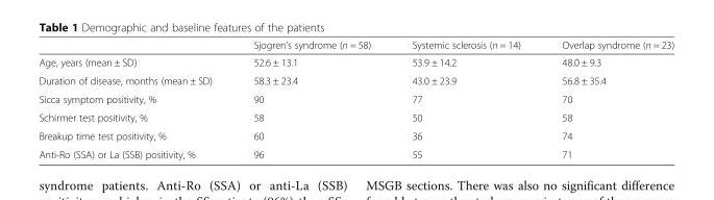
<table><thead><tr><td></td><td>Sjogren’s syndrome (n = 58)</td><td>Systemic sclerosis (n = 14)</td><td>Overlap syndrome (n = 23)</td></tr></thead><tbody><tr><td>Age, years (mean ± SD)</td><td>52.6 ± 13.1</td><td>53.9 ± 14.2</td><td>48.0 ± 9.3</td></tr><tr><td>Duration of disease, months (mean ± SD)</td><td>58.3 ± 23.4</td><td>43.0 ± 23.9</td><td>56.8 ± 35.4</td></tr><tr><td>Sicca symptom positivity, %</td><td>90</td><td>77</td><td>70</td></tr><tr><td>Schirmer test positivity, %</td><td>58</td><td>50</td><td>58</td></tr><tr><td>Breakup time test positivity, %</td><td>60</td><td>36</td><td>74</td></tr><tr><td>Anti-Ro (SSA) or La (SSB) positivity, %</td><td>96</td><td>55</td><td>71</td></tr></tbody></table>